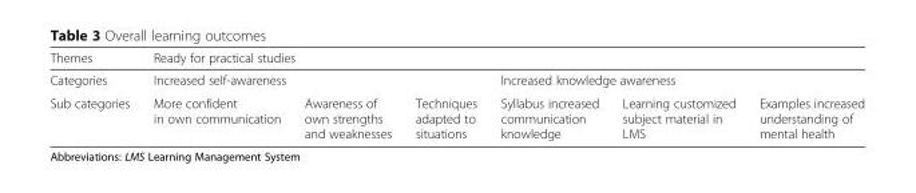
<table><thead><tr><td rowspan="3">Themes Categories Sub categories</td><td colspan="6">Ready for practical studies</td></tr><tr><td colspan="3">Increased self-awareness</td><td colspan="3">Increased knowledge awareness</td></tr><tr><td>More confident in own communication</td><td>Awareness of own strengths and weaknesses</td><td>Techniques adapted to situations</td><td>Syllabus increased communication knowledge</td><td>Learning customized subject material in LMS</td><td>Examples increased understanding of mental health</td></tr></thead><tbody></tbody></table>